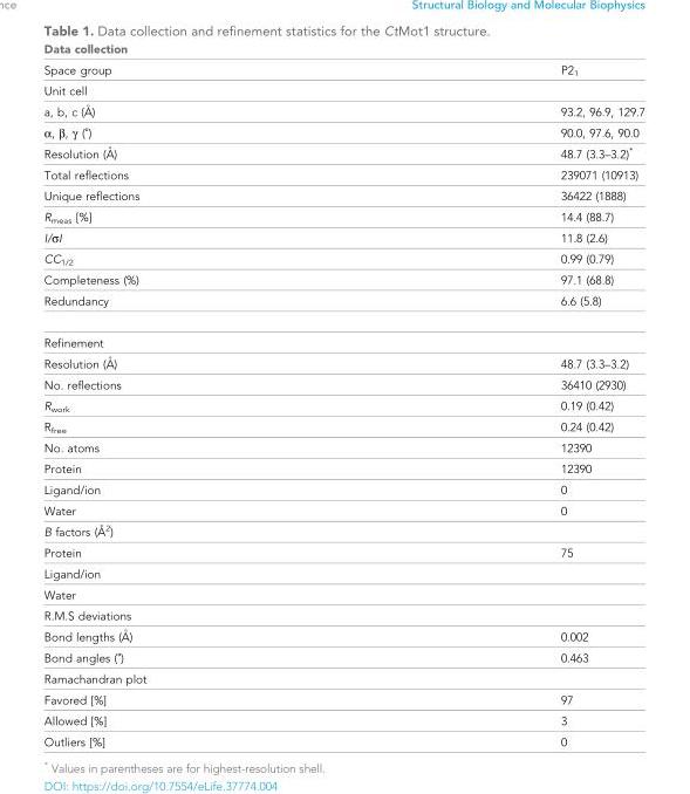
<table><thead><tr><td>Data collection</td><td></td></tr></thead><tbody><tr><td>Space group</td><td>P2<sub>1</sub></td></tr><tr><td colspan="2">Unit cell</td></tr><tr><td>a, b, c (A˚ )</td><td>93.2, 96.9, 129.7</td></tr><tr><td>α, β, γ (˚)</td><td>90.0, 97.6, 90.0</td></tr><tr><td>Resolution (A˚ )</td><td>48.7 (3.3–3.2)*</td></tr><tr><td>Total reflections</td><td>239071 (10913)</td></tr><tr><td>Unique reflections</td><td>36422 (1888)</td></tr><tr><td>R<sub>meas</sub> [%]</td><td>14.4 (88.7)</td></tr><tr><td>I/σI</td><td>11.8 (2.6)</td></tr><tr><td>CC<sub>1/2</sub></td><td>0.99 (0.79)</td></tr><tr><td>Completeness (%)</td><td>97.1 (68.8)</td></tr><tr><td>Redundancy</td><td>6.6 (5.8)</td></tr><tr><td colspan="2">Refinement</td></tr><tr><td>Resolution (A˚ )</td><td>48.7 (3.3–3.2)</td></tr><tr><td>No. reflections</td><td>36410 (2930)</td></tr><tr><td>R<sub>work</sub></td><td>0.19 (0.42)</td></tr><tr><td>R<sub>free</sub></td><td>0.24 (0.42)</td></tr><tr><td>No. atoms</td><td>12390</td></tr><tr><td>Protein</td><td>12390</td></tr><tr><td>Ligand/ion</td><td>0</td></tr><tr><td>Water</td><td>0</td></tr><tr><td colspan="2">B factors (A˚ 2)</td></tr><tr><td>Protein</td><td>75</td></tr><tr><td colspan="2">Ligand/ion</td></tr><tr><td colspan="2">Water</td></tr><tr><td colspan="2">R.M.S deviations</td></tr><tr><td>Bond lengths (A˚ )</td><td>0.002</td></tr><tr><td>Bond angles (˚)</td><td>0.463</td></tr><tr><td colspan="2">Ramachandran plot</td></tr><tr><td>Favored [%]</td><td>97</td></tr><tr><td>Allowed [%]</td><td>3</td></tr><tr><td>Outliers [%]</td><td>0</td></tr></tbody></table>